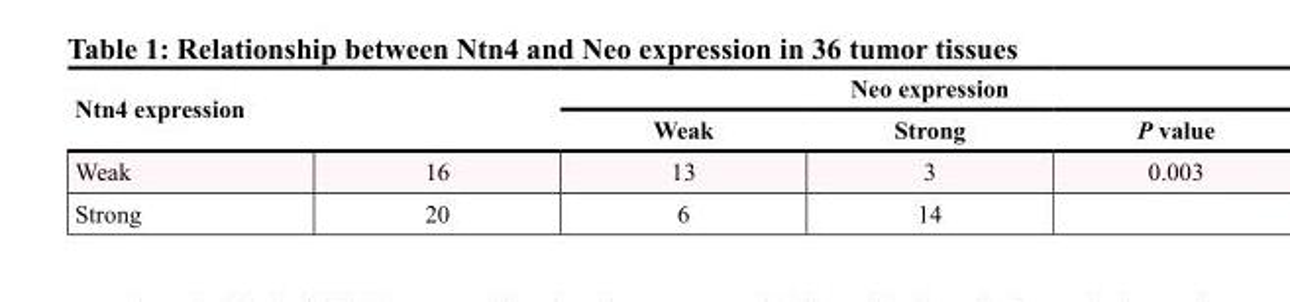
<table><thead><tr><td rowspan="2" colspan="2">Ntn4 expression</td><td colspan="3">Neo expression</td></tr><tr><td rowspan="2">Weak 13</td><td rowspan="2">Strong 3</td><td rowspan="2">P value 0.003</td></tr><tr><td>Weak</td><td>16</td></tr></thead><tbody><tr><td>Strong</td><td>20</td><td>6</td><td>14</td><td></td></tr></tbody></table>